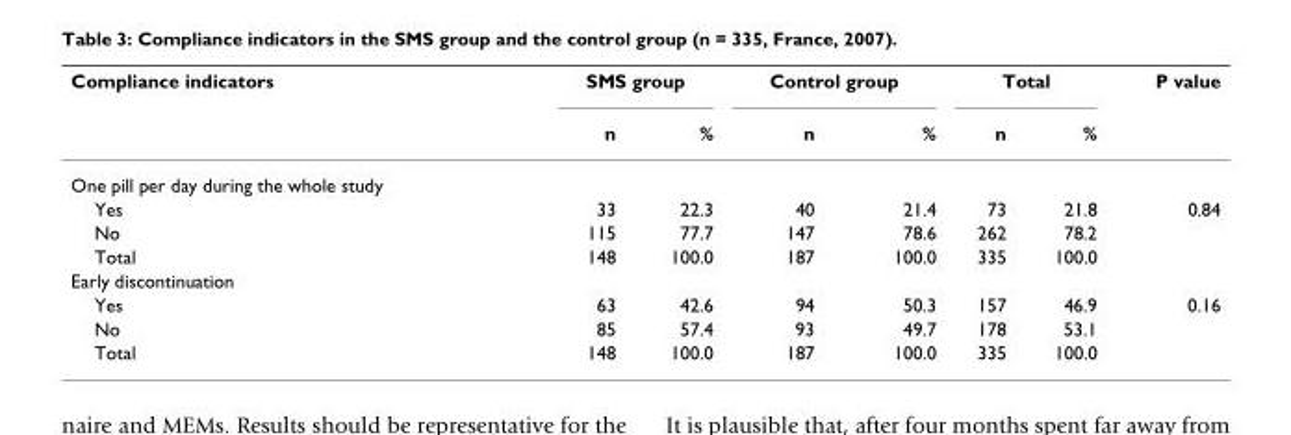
<table><thead><tr><td rowspan="2">Compliance indicators</td><td colspan="2">SMS group</td><td colspan="2">Control group</td><td colspan="2">Total</td><td rowspan="2">P value</td></tr><tr><td>n</td><td>%</td><td>n</td><td>%</td><td>n</td><td>%</td></tr></thead><tbody><tr><td colspan="8">One pill per day during the whole study</td></tr><tr><td>Yes</td><td>33</td><td>22.3</td><td>40</td><td>21.4</td><td>73</td><td>21.8</td><td>0.84</td></tr><tr><td>No</td><td>115</td><td>77.7</td><td>147</td><td>78.6</td><td>262</td><td>78.2</td><td></td></tr><tr><td>Total</td><td>148</td><td>100.0</td><td>187</td><td>100.0</td><td>335</td><td>100.0</td><td></td></tr><tr><td colspan="8">Early discontinuation</td></tr><tr><td>Yes</td><td>63</td><td>42.6</td><td>94</td><td>50.3</td><td>157</td><td>46.9</td><td>0.16</td></tr><tr><td>No</td><td>85</td><td>57.4</td><td>93</td><td>49.7</td><td>178</td><td>53.1</td><td></td></tr><tr><td>Total</td><td>148</td><td>100.0</td><td>187</td><td>100.0</td><td>335</td><td>100.0</td><td></td></tr></tbody></table>